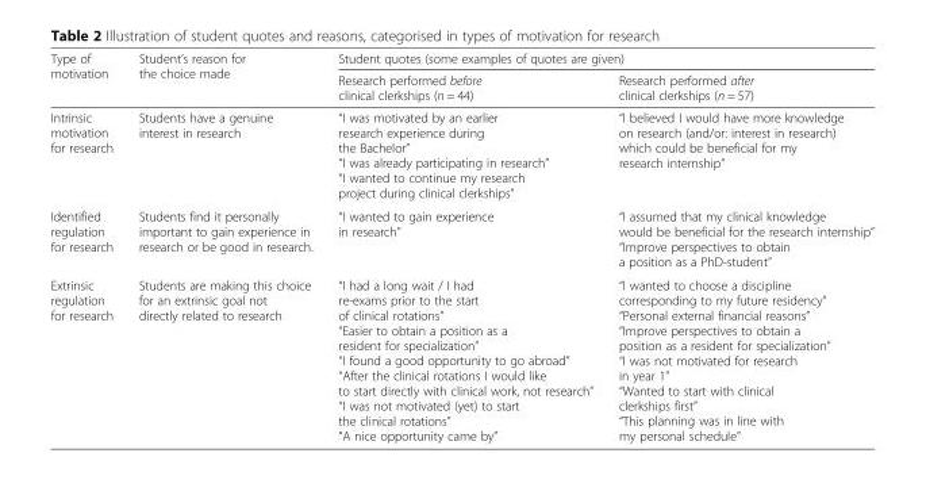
<table><thead><tr><td rowspan="2">Type of motivation</td><td rowspan="2">Student’s reason for the choice made</td><td colspan="2">Student quotes (some examples of quotes are given)</td></tr><tr><td>Research performed before clinical clerkships (n = 44)</td><td>Research performed after clinical clerkships (n = 57)</td></tr></thead><tbody><tr><td>Intrinsic motivation for research</td><td>Students have a genuine interest in research</td><td>“I was motivated by an earlier research experience during the Bachelor” “I was already participating in research” “I wanted to continue my research project during clinical clerkships”</td><td>“I believed I would have more knowledge on research (and/or: interest in research) which could be beneficial for my research internship”</td></tr><tr><td>Identified regulation for research</td><td>Students find it personally important to gain experience in research or be good in research.</td><td>“I wanted to gain experience in research”</td><td>“I assumed that my clinical knowledge would be beneficial for the research internship” “Improve perspectives to obtain a position as a PhD-student”</td></tr><tr><td>Extrinsic regulation for research</td><td>Students are making this choice for an extrinsic goal not directly related to research</td><td>“I had a long wait / I had re-exams prior to the start of clinical rotations” “Easier to obtain a position as a resident for specialization” “I found a good opportunity to go abroad” “After the clinical rotations I would like to start directly with clinical work, not research” “I was not motivated (yet) to start the clinical rotations” “A nice opportunity came by”</td><td>“I wanted to choose a discipline corresponding to my future residency” “Personal external financial reasons” “Improve perspectives to obtain a position as a resident for specialization” “I was not motivated for research in year 1” “Wanted to start with clinical clerkships first” “This planning was in line with my personal schedule”</td></tr></tbody></table>